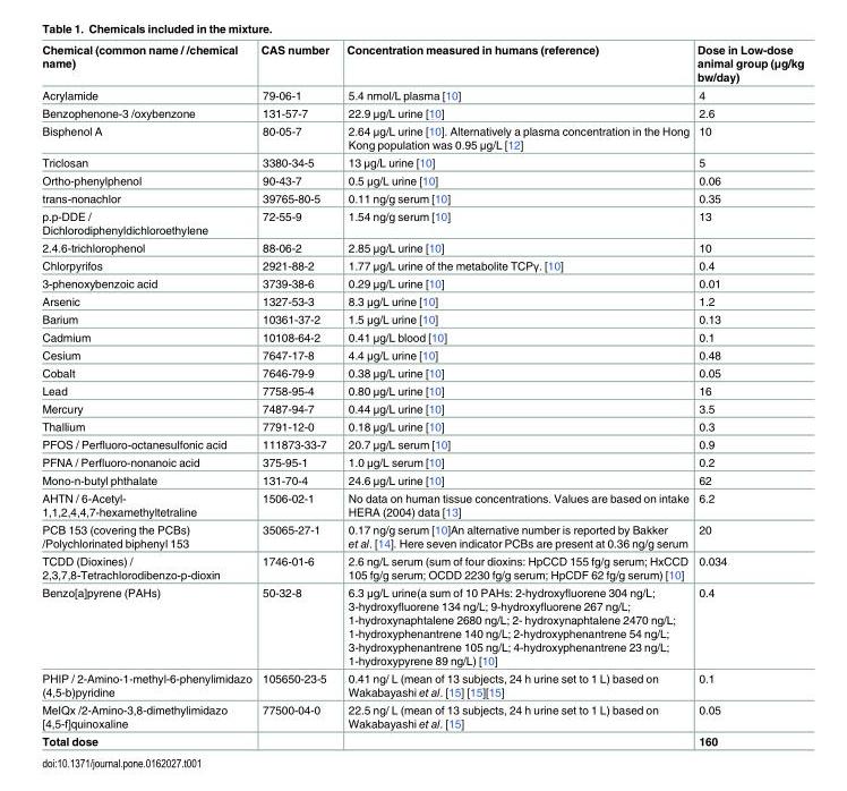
<table><thead><tr><td>Chemical (common name / /chemical name)</td><td>CAS number</td><td>Concentration measured in humans (reference)</td><td>Dose in Low-dose animal group (μg/kg bw/day)</td></tr></thead><tbody><tr><td>Acrylamide</td><td>79-06-1</td><td>5.4 nmol/L plasma [10]</td><td>4</td></tr><tr><td>Benzophenone-3 /oxybenzone</td><td>131-57-7</td><td>22.9 μg/L urine [10]</td><td>2.6</td></tr><tr><td>Bisphenol A</td><td>80-05-7</td><td>2.64 μg/L urine [10]. Alternatively a plasma concentration in the Hong Kong population was 0.95 μg/L [12]</td><td>10</td></tr><tr><td>Triclosan</td><td>3380-34-5</td><td>13 μg/L urine [10]</td><td>5</td></tr><tr><td>Ortho-phenylphenol</td><td>90-43-7</td><td>0.5 μg/L urine [10]</td><td>0.06</td></tr><tr><td>trans-nonachlor</td><td>39765-80-5</td><td>0.11 ng/g serum [10]</td><td>0.35</td></tr><tr><td>p.p-DDE / Dichlorodiphenyldichloroethylene</td><td>72-55-9</td><td>1.54 ng/g serum [10]</td><td>13</td></tr><tr><td>2.4.6-trichlorophenol</td><td>88-06-2</td><td>2.85 μg/L urine [10]</td><td>10</td></tr><tr><td>Chlorpyrifos</td><td>2921-88-2</td><td>1.77 μg/L urine of the metabolite TCPγ. [10]</td><td>0.4</td></tr><tr><td>3-phenoxybenzoic acid</td><td>3739-38-6</td><td>0.29 μg/L urine [10]</td><td>0.01</td></tr><tr><td>Arsenic</td><td>1327-53-3</td><td>8.3 μg/L urine [10]</td><td>1.2</td></tr><tr><td>Barium</td><td>10361-37-2</td><td>1.5 μg/L urine [10]</td><td>0.13</td></tr><tr><td>Cadmium</td><td>10108-64-2</td><td>0.41 μg/L blood [10]</td><td>0.1</td></tr><tr><td>Cesium</td><td>7647-17-8</td><td>4.4 μg/L urine [10]</td><td>0.48</td></tr><tr><td>Cobalt</td><td>7646-79-9</td><td>0.38 μg/L urine [10]</td><td>0.05</td></tr><tr><td>Lead</td><td>7758-95-4</td><td>0.80 μg/L urine [10]</td><td>16</td></tr><tr><td>Mercury</td><td>7487-94-7</td><td>0.44 μg/L urine [10]</td><td>3.5</td></tr><tr><td>Thallium</td><td>7791-12-0</td><td>0.18 μg/L urine [10]</td><td>0.3</td></tr><tr><td>PFOS / Perfluoro-octanesulfonic acid</td><td>111873-33-7</td><td>20.7 μg/L serum [10]</td><td>0.9</td></tr><tr><td>PFNA / Perfluoro-nonanoic acid</td><td>375-95-1</td><td>1.0 μg/L serum [10]</td><td>0.2</td></tr><tr><td>Mono-n-butyl phthalate</td><td>131-70-4</td><td>24.6 μg/L urine [10]</td><td>62</td></tr><tr><td>AHTN / 6-Acetyl- 1,1,2,4,4,7-hexamethyltetraline</td><td>1506-02-1</td><td>No data on human tissue concentrations. Values are based on intake HERA (2004) data [13]</td><td>6.2</td></tr><tr><td>PCB 153 (covering the PCBs) /Polychlorinated biphenyl 153</td><td>35065-27-1</td><td>0.17 ng/g serum [10]An alternative number is reported by Bakker et al. [14]. Here seven indicator PCBs are present at 0.36 ng/g serum</td><td>20</td></tr><tr><td>TCDD (Dioxines) / 2,3,7,8-Tetrachlorodibenzo-p-dioxin</td><td>1746-01-6</td><td>2.6 ng/L serum (sum of four dioxins: HpCCD 155 fg/g serum; HxCCD 105 fg/g serum; OCDD 2230 fg/g serum; HpCDF 62 fg/g serum) [10]</td><td>0.034</td></tr><tr><td>Benzo[a]pyrene (PAHs)</td><td>50-32-8</td><td>6.3 μg/L urine(a sum of 10 PAHs: 2-hydroxyfluorene 304 ng/L; 3-hydroxyfluorene 134 ng/L; 9-hydroxyfluorene 267 ng/L; 1-hydroxynaphtalene 2680 ng/L; 2- hydroxynaphtalene 2470 ng/L; 1-hydroxyphenantrene 140 ng/L; 2-hydroxyphenantrene 54 ng/L; 3-hydroxyphenantrene 105 ng/L; 4-hydroxyphenantrene 23 ng/L; 1-hydroxypyrene 89 ng/L) [10]</td><td>0.4</td></tr><tr><td>PHIP / 2-Amino-1-methyl-6-phenylimidazo (4,5-b)pyridine</td><td>105650-23-5</td><td>0.41 ng/ L (mean of 13 subjects, 24 h urine set to 1 L) based on Wakabayashi et al. [15] [15][15]</td><td>0.1</td></tr><tr><td>MeIQx /2-Amino-3,8-dimethylimidazo [4,5-f]quinoxaline</td><td>77500-04-0</td><td>22.5 ng/ L (mean of 13 subjects, 24 h urine set to 1 L) based on Wakabayashi et al. [15]</td><td>0.05</td></tr><tr><td>Total dose</td><td></td><td></td><td>160</td></tr></tbody></table>